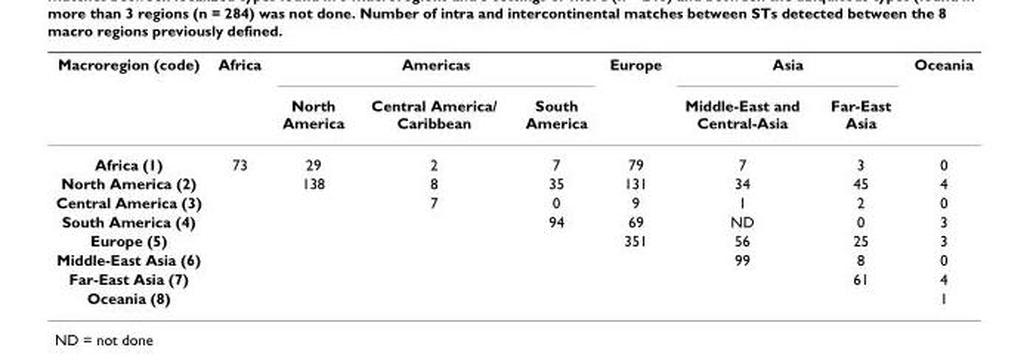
<table><thead><tr><td rowspan="2">Macroregion (code)</td><td rowspan="2">Africa</td><td colspan="3">Americas</td><td rowspan="2">Europe</td><td colspan="2">Asia</td><td rowspan="2">Oceania</td></tr><tr><td>North America</td><td>Central America/ Caribbean</td><td>South America</td><td>Middle-East and Central-Asia</td><td>Far-East Asia</td></tr></thead><tbody><tr><td>Africa (1)</td><td>73</td><td>29</td><td>2</td><td>7</td><td>79</td><td>7</td><td>3</td><td>0</td></tr><tr><td>North America (2)</td><td></td><td>138</td><td>8</td><td>35</td><td>131</td><td>34</td><td>45</td><td>4</td></tr><tr><td>Central America (3)</td><td></td><td></td><td>7</td><td>0</td><td>9</td><td>1</td><td>2</td><td>0</td></tr><tr><td>South America (4)</td><td></td><td></td><td></td><td>94</td><td>69</td><td>ND</td><td>0</td><td>3</td></tr><tr><td>Europe (5)</td><td></td><td></td><td></td><td></td><td>351</td><td>56</td><td>25</td><td>3</td></tr><tr><td>Middle-East Asia (6)</td><td></td><td></td><td></td><td></td><td></td><td>99</td><td>8</td><td>0</td></tr><tr><td>Far-East Asia (7)</td><td></td><td></td><td></td><td></td><td></td><td></td><td>61</td><td>4</td></tr><tr><td>Oceania (8)</td><td></td><td></td><td></td><td></td><td></td><td></td><td></td><td>1</td></tr></tbody></table>